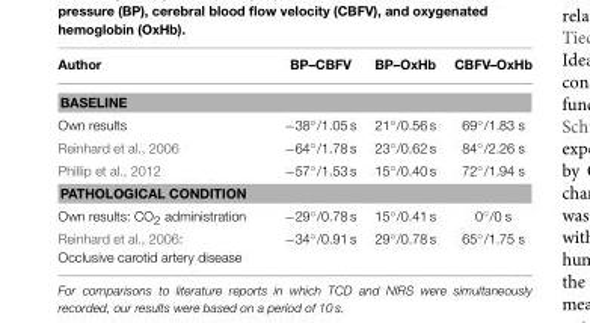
<table><thead><tr><td>Author</td><td>BP–CBFV</td><td>BP–OxHb</td><td>CBFV–OxHb</td></tr></thead><tbody><tr><td colspan="4">BASELINE</td></tr><tr><td>Own results</td><td>−38◦/1.05 s</td><td>21◦/0.56 s</td><td>69◦/1.83 s</td></tr><tr><td>Reinhard et al., 2006</td><td>−64◦/1.78 s</td><td>23◦/0.62 s</td><td>84◦/2.26 s</td></tr><tr><td>Phillip et al., 2012</td><td>−57◦/1.53 s</td><td>15◦/0.40 s</td><td>72◦/1.94 s</td></tr><tr><td colspan="4">PATHOLOGICAL CONDITION</td></tr><tr><td>Own results: CO2 administration</td><td>−29◦/0.78 s</td><td>15◦/0.41 s</td><td>0◦/0 s</td></tr><tr><td>Reinhard et al., 2006: Occlusive carotid artery disease</td><td>−34◦/0.91 s</td><td>29◦/0.78 s</td><td>65◦/1.75 s</td></tr></tbody></table>